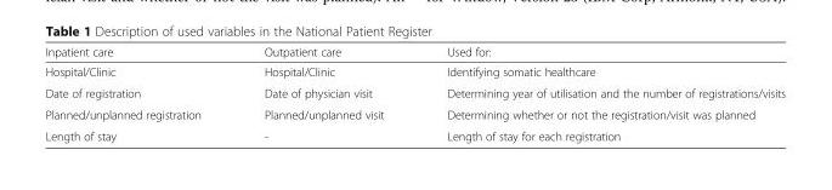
<table><thead><tr><td>Inpatient care</td><td>Outpatient care</td><td>Used for:</td></tr></thead><tbody><tr><td>Hospital/Clinic</td><td>Hospital/Clinic</td><td>Identifying somatic healthcare</td></tr><tr><td>Date of registration</td><td>Date of physician visit</td><td>Determining year of utilisation and the number of registrations/visits</td></tr><tr><td>Planned/unplanned registration</td><td>Planned/unplanned visit</td><td>Determining whether or not the registration/visit was planned</td></tr><tr><td>Length of stay</td><td>-</td><td>Length of stay for each registration</td></tr></tbody></table>